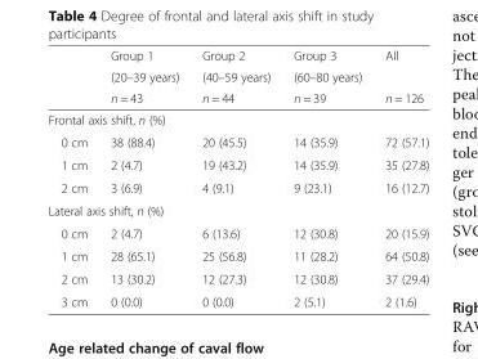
<table><thead><tr><td rowspan="3"></td><td rowspan="3">Group 1 (20–39 years) n = 43</td><td rowspan="3">Group 2 (40–59 years) n = 44</td><td rowspan="3">Group 3 (60–80 years) n = 39</td><td rowspan="3">All n = 126</td></tr><tr></tr><tr></tr></thead><tbody><tr><td colspan="5">Frontal axis shift, n (%)</td></tr><tr><td>0 cm</td><td>38 (88.4)</td><td>20 (45.5)</td><td>14 (35.9)</td><td>72 (57.1)</td></tr><tr><td>1 cm</td><td>2 (4.7)</td><td>19 (43.2)</td><td>14 (35.9)</td><td>35 (27.8)</td></tr><tr><td>2 cm</td><td>3 (6.9)</td><td>4 (9.1)</td><td>9 (23.1)</td><td>16 (12.7)</td></tr><tr><td colspan="5">Lateral axis shift, n (%)</td></tr><tr><td>0 cm</td><td>2 (4.7)</td><td>6 (13.6)</td><td>12 (30.8)</td><td>20 (15.9)</td></tr><tr><td>1 cm</td><td>28 (65.1)</td><td>25 (56.8)</td><td>11 (28.2)</td><td>64 (50.8)</td></tr><tr><td>2 cm</td><td>13 (30.2)</td><td>12 (27.3)</td><td>12 (30.8)</td><td>37 (29.4)</td></tr><tr><td>3 cm</td><td>0 (0.0)</td><td>0 (0.0)</td><td>2 (5.1)</td><td>2 (1.6)</td></tr></tbody></table>